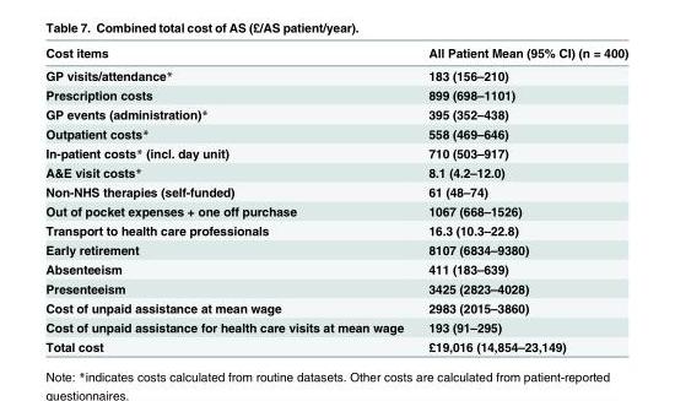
<table><thead><tr><td>Cost items</td><td>All Patient Mean (95% CI) (n = 400)</td></tr></thead><tbody><tr><td>GP visits/attendance*</td><td>183 (156–210)</td></tr><tr><td>Prescription costs</td><td>899 (698–1101)</td></tr><tr><td>GP events (administration)*</td><td>395 (352–438)</td></tr><tr><td>Outpatient costs*</td><td>558 (469–646)</td></tr><tr><td>In-patient costs* (incl. day unit)</td><td>710 (503–917)</td></tr><tr><td>A&amp;E visit costs*</td><td>8.1 (4.2–12.0)</td></tr><tr><td>Non-NHS therapies (self-funded)</td><td>61 (48–74)</td></tr><tr><td>Out of pocket expenses + one off purchase</td><td>1067 (668–1526)</td></tr><tr><td>Transport to health care professionals</td><td>16.3 (10.3–22.8)</td></tr><tr><td>Early retirement</td><td>8107 (6834–9380)</td></tr><tr><td>Absenteeism</td><td>411 (183–639)</td></tr><tr><td>Presenteeism</td><td>3425 (2823–4028)</td></tr><tr><td>Cost of unpaid assistance at mean wage</td><td>2983 (2015–3860)</td></tr><tr><td>Cost of unpaid assistance for health care visits at mean wage</td><td>193 (91–295)</td></tr><tr><td>Total cost</td><td>£19,016 (14,854–23,149)</td></tr></tbody></table>